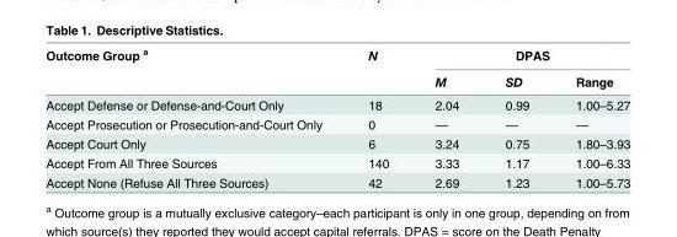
<table><thead><tr><td rowspan="2">Outcome Group <sup>a</sup></td><td rowspan="2">N</td><td colspan="3">DPAS</td></tr><tr><td>M</td><td>SD</td><td>Range</td></tr></thead><tbody><tr><td>Accept Defense or Defense-and-Court Only</td><td>18</td><td>2.04</td><td>0.99</td><td>1.00–5.27</td></tr><tr><td>Accept Prosecution or Prosecution-and-Court Only</td><td>0</td><td>—</td><td>—</td><td>—</td></tr><tr><td>Accept Court Only</td><td>6</td><td>3.24</td><td>0.75</td><td>1.80–3.93</td></tr><tr><td>Accept From All Three Sources</td><td>140</td><td>3.33</td><td>1.17</td><td>1.00–6.33</td></tr><tr><td>Accept None (Refuse All Three Sources)</td><td>42</td><td>2.69</td><td>1.23</td><td>1.00–5.73</td></tr></tbody></table>